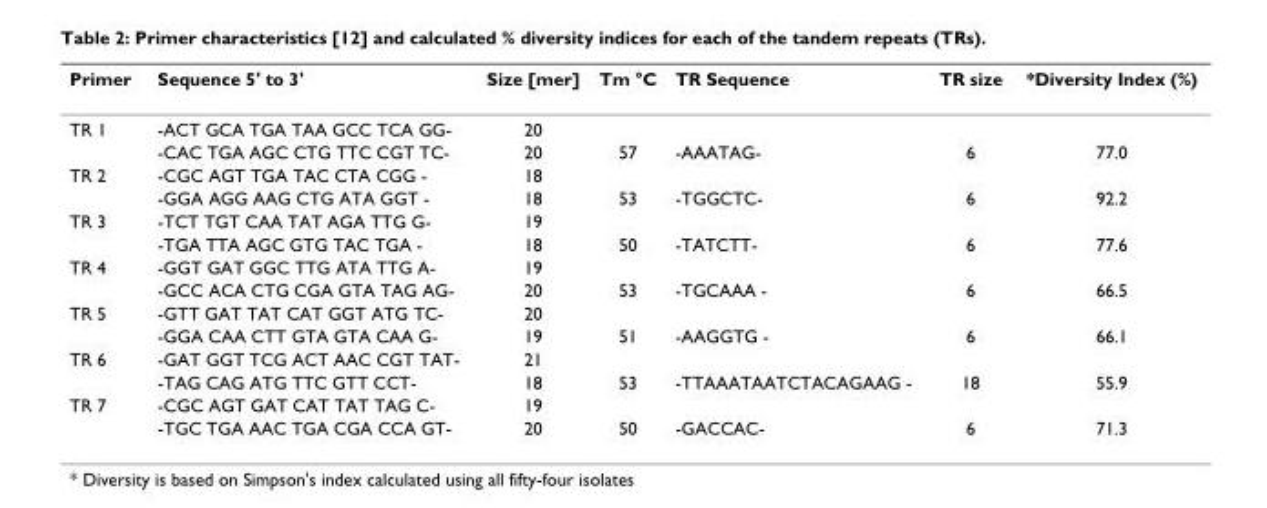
<table><thead><tr><td>Primer</td><td>Sequence 5&#x27; to 3&#x27;</td><td>Size [mer]</td><td>Tm °C</td><td>TR Sequence</td><td>TR size</td><td>*Diversity Index (%)</td></tr></thead><tbody><tr><td rowspan="2">TR 1</td><td>-ACT GCA TGA TAA GCC TCA GG-</td><td>20</td><td></td><td></td><td></td><td></td></tr><tr><td>-CAC TGA AGC CTG TTC CGT TC-</td><td>20</td><td>57</td><td>-AAATAG-</td><td>6</td><td>77.0</td></tr><tr><td rowspan="2">TR 2</td><td>-CGC AGT TGA TAC CTA CGG -</td><td>18</td><td></td><td></td><td></td><td></td></tr><tr><td>-GGA AGG AAG CTG ATA GGT -</td><td>18</td><td>53</td><td>-TGGCTC-</td><td>6</td><td>92.2</td></tr><tr><td rowspan="2">TR 3</td><td>-TCT TGT CAA TAT AGA TTG G-</td><td>19</td><td></td><td></td><td></td><td></td></tr><tr><td>-TGA TTA AGC GTG TAC TGA -</td><td>18</td><td>50</td><td>-TATCTT-</td><td>6</td><td>77.6</td></tr><tr><td rowspan="2">TR 4</td><td>-GGT GAT GGC TTG ATA TTG A-</td><td>19</td><td></td><td></td><td></td><td></td></tr><tr><td>-GCC ACA CTG CGA GTA TAG AG-</td><td>20</td><td>53</td><td>-TGCAAA -</td><td>6</td><td>66.5</td></tr><tr><td rowspan="2">TR 5</td><td>-GTT GAT TAT CAT GGT ATG TC-</td><td>20</td><td></td><td></td><td></td><td></td></tr><tr><td>-GGA CAA CTT GTA GTA CAA G-</td><td>19</td><td>51</td><td>-AAGGTG -</td><td>6</td><td>66.1</td></tr><tr><td rowspan="2">TR 6</td><td>-GAT GGT TCG ACT AAC CGT TAT-</td><td>21</td><td></td><td></td><td></td><td></td></tr><tr><td>-TAG CAG ATG TTC GTT CCT-</td><td>18</td><td>53</td><td>-TTAAATAATCTACAGAAG -</td><td>18</td><td>55.9</td></tr><tr><td rowspan="2">TR 7</td><td>-CGC AGT GAT CAT TAT TAG C-</td><td>19</td><td></td><td></td><td></td><td></td></tr><tr><td>-TGC TGA AAC TGA CGA CCA GT-</td><td>20</td><td>50</td><td>-GACCAC-</td><td>6</td><td>71.3</td></tr></tbody></table>